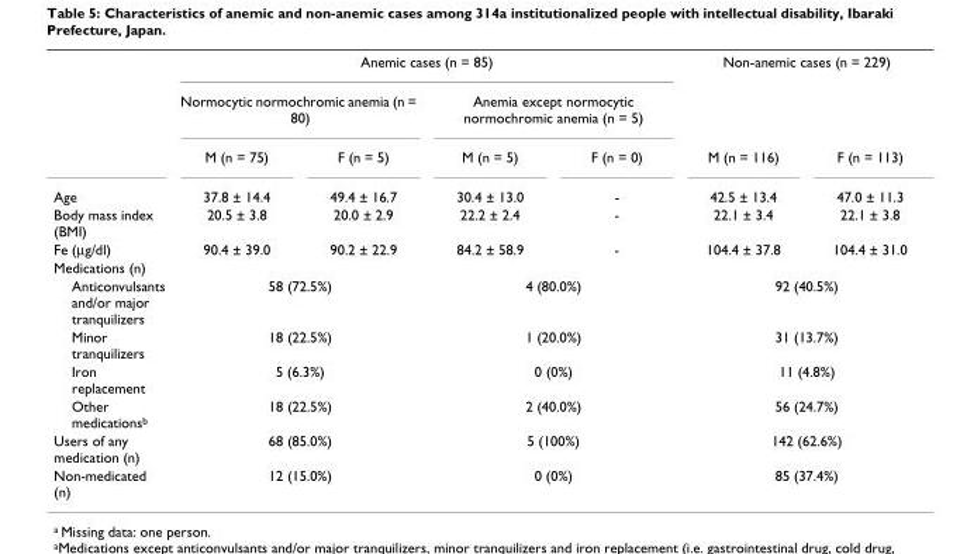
<table><thead><tr><td rowspan="3"></td><td colspan="4">Anemic cases (n = 85)</td><td colspan="2">Non-anemic cases (n = 229)</td></tr><tr><td colspan="2">Normocytic normochromic anemia (n = 80)</td><td colspan="2">Anemia except normocytic normochromic anemia (n = 5)</td><td rowspan="2">M (n = 116)</td><td rowspan="2">F (n = 113)</td></tr><tr><td>M (n = 75)</td><td>F (n = 5)</td><td>M (n = 5)</td><td>F (n = 0)</td></tr></thead><tbody><tr><td>Age</td><td>37.8 ± 14.4</td><td>49.4 ± 16.7</td><td>30.4 ± 13.0</td><td>-</td><td>42.5 ± 13.4</td><td>47.0 ± 11.3</td></tr><tr><td>Body mass index (BMI)</td><td>20.5 ± 3.8</td><td>20.0 ± 2.9</td><td>22.2 ± 2.4</td><td>-</td><td>22.1 ± 3.4</td><td>22.1 ± 3.8</td></tr><tr><td>Fe (μg/dl)</td><td>90.4 ± 39.0</td><td>90.2 ± 22.9</td><td>84.2 ± 58.9</td><td>-</td><td>104.4 ± 37.8</td><td>104.4 ± 31.0</td></tr><tr><td colspan="7">Medications (n)</td></tr><tr><td>Anticonvulsants and/or major tranquilizers</td><td colspan="2">58 (72.5%)</td><td colspan="2">4 (80.0%)</td><td colspan="2">92 (40.5%)</td></tr><tr><td>Minor tranquilizers</td><td colspan="2">18 (22.5%)</td><td colspan="2">1 (20.0%)</td><td colspan="2">31 (13.7%)</td></tr><tr><td>Iron replacement</td><td colspan="2">5 (6.3%)</td><td colspan="2">0 (0%)</td><td colspan="2">11 (4.8%)</td></tr><tr><td>Other medicationsb</td><td colspan="2">18 (22.5%)</td><td colspan="2">2 (40.0%)</td><td colspan="2">56 (24.7%)</td></tr><tr><td>Users of any medication (n)</td><td colspan="2">68 (85.0%)</td><td colspan="2">5 (100%)</td><td colspan="2">142 (62.6%)</td></tr><tr><td>Non-medicated (n)</td><td colspan="2">12 (15.0%)</td><td colspan="2">0 (0%)</td><td colspan="2">85 (37.4%)</td></tr></tbody></table>